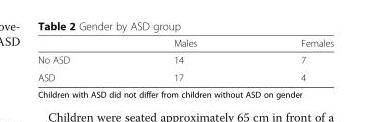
<table><thead><tr><td></td><td>Males</td><td>Females</td></tr></thead><tbody><tr><td>No ASD</td><td>14</td><td>7</td></tr><tr><td>ASD</td><td>17</td><td>4</td></tr></tbody></table>